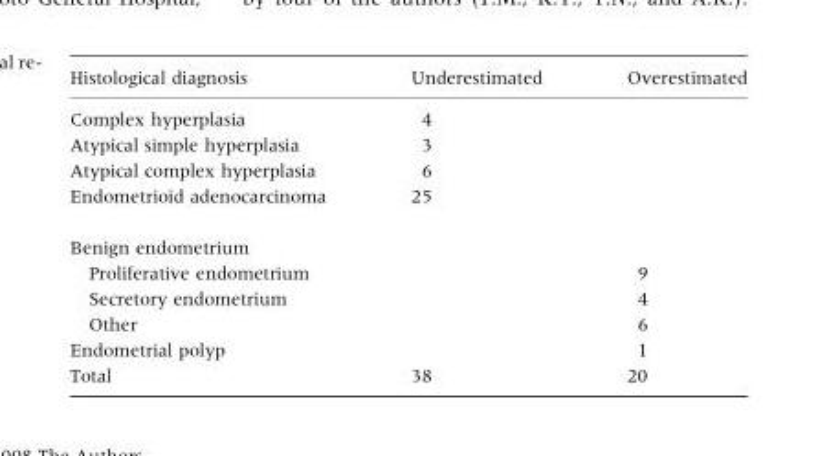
<table><thead><tr><td>Histological diagnosis</td><td>Underestimated</td><td>Overestimated</td></tr></thead><tbody><tr><td>Complex hyperplasia</td><td>4</td><td></td></tr><tr><td>Atypical simple hyperplasia</td><td>3</td><td></td></tr><tr><td>Atypical complex hyperplasia</td><td>6</td><td></td></tr><tr><td>Endometrioid adenocarcinoma</td><td>25</td><td></td></tr><tr><td colspan="3">Benign endometrium</td></tr><tr><td>Proliferative endometrium</td><td></td><td>9</td></tr><tr><td>Secretory endometrium</td><td></td><td>4</td></tr><tr><td>Other</td><td></td><td>6</td></tr><tr><td>Endometrial polyp</td><td></td><td>1</td></tr><tr><td>Total</td><td>38</td><td>20</td></tr></tbody></table>